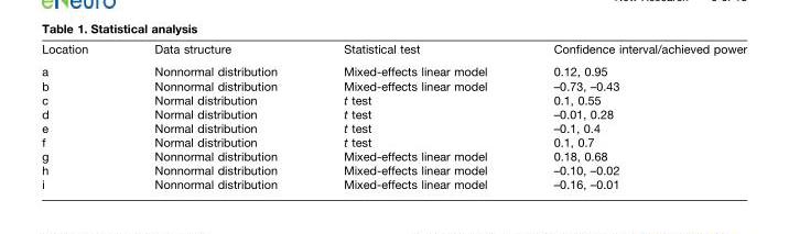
<table><thead><tr><td>Location</td><td>Data structure</td><td>Statistical test</td><td>Confidence interval/achieved power</td></tr></thead><tbody><tr><td>a</td><td>Nonnormal distribution</td><td>Mixed-effects linear model</td><td>0.12, 0.95</td></tr><tr><td>b</td><td>Nonnormal distribution</td><td>Mixed-effects linear model</td><td>–0.73, –0.43</td></tr><tr><td>c</td><td>Normal distribution</td><td>t test</td><td>0.1, 0.55</td></tr><tr><td>d</td><td>Normal distribution</td><td>t test</td><td>–0.01, 0.28</td></tr><tr><td>e</td><td>Normal distribution</td><td>t test</td><td>–0.1, 0.4</td></tr><tr><td>f</td><td>Normal distribution</td><td>t test</td><td>0.1, 0.7</td></tr><tr><td>g</td><td>Nonnormal distribution</td><td>Mixed-effects linear model</td><td>0.18, 0.68</td></tr><tr><td>h</td><td>Nonnormal distribution</td><td>Mixed-effects linear model</td><td>–0.10, –0.02</td></tr><tr><td>i</td><td>Nonnormal distribution</td><td>Mixed-effects linear model</td><td>–0.16, –0.01</td></tr></tbody></table>